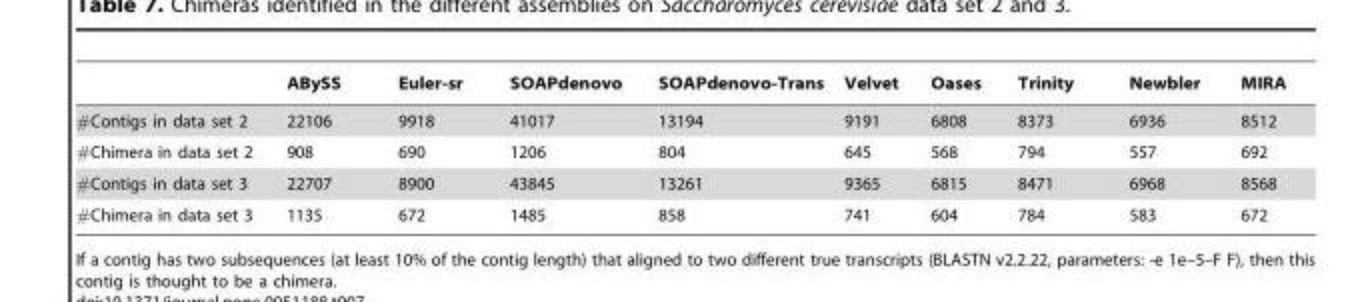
<table><thead><tr><td></td><td>ABySS</td><td>Euler-sr</td><td>SOAPdenovo</td><td>SOAPdenovo-Trans</td><td>Velvet</td><td>Oases</td><td>Trinity</td><td>Newbler</td><td>MIRA</td></tr></thead><tbody><tr><td>#Contigs in data set 2</td><td>22106</td><td>9918</td><td>41017</td><td>13194</td><td>9191</td><td>6808</td><td>8373</td><td>6936</td><td>8512</td></tr><tr><td>#Chimera in data set 2</td><td>908</td><td>690</td><td>1206</td><td>804</td><td>645</td><td>568</td><td>794</td><td>557</td><td>692</td></tr><tr><td>#Contigs in data set 3</td><td>22707</td><td>8900</td><td>43845</td><td>13261</td><td>9365</td><td>6815</td><td>8471</td><td>6968</td><td>8568</td></tr><tr><td>#Chimera in data set 3</td><td>1135</td><td>672</td><td>1485</td><td>858</td><td>741</td><td>604</td><td>784</td><td>583</td><td>672</td></tr></tbody></table>